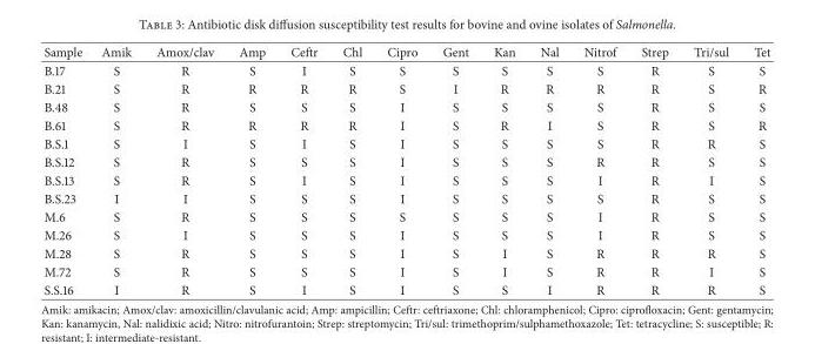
<table><thead><tr><td>Sample</td><td>Amik</td><td>Amox/clav</td><td>Amp</td><td>Ceftr</td><td>Chl</td><td>Cipro</td><td>Gent</td><td>Kan</td><td>Nal</td><td>Nitrof</td><td>Strep</td><td>Tri/sul</td><td>Tet</td></tr></thead><tbody><tr><td>B.17</td><td>S</td><td>R</td><td>S</td><td>I</td><td>S</td><td>S</td><td>S</td><td>S</td><td>S</td><td>S</td><td>R</td><td>S</td><td>S</td></tr><tr><td>B.21</td><td>S</td><td>R</td><td>R</td><td>R</td><td>R</td><td>S</td><td>I</td><td>R</td><td>R</td><td>R</td><td>R</td><td>S</td><td>R</td></tr><tr><td>B.48</td><td>S</td><td>R</td><td>S</td><td>S</td><td>S</td><td>I</td><td>S</td><td>S</td><td>S</td><td>S</td><td>R</td><td>S</td><td>S</td></tr><tr><td>B.61</td><td>S</td><td>R</td><td>R</td><td>R</td><td>R</td><td>I</td><td>S</td><td>R</td><td>I</td><td>S</td><td>R</td><td>S</td><td>R</td></tr><tr><td>B.S.1</td><td>S</td><td>I</td><td>S</td><td>I</td><td>S</td><td>I</td><td>S</td><td>S</td><td>S</td><td>S</td><td>R</td><td>R</td><td>S</td></tr><tr><td>B.S.12</td><td>S</td><td>R</td><td>S</td><td>S</td><td>S</td><td>I</td><td>S</td><td>S</td><td>S</td><td>R</td><td>R</td><td>S</td><td>S</td></tr><tr><td>B.S.13</td><td>S</td><td>R</td><td>S</td><td>I</td><td>S</td><td>I</td><td>S</td><td>S</td><td>S</td><td>I</td><td>R</td><td>I</td><td>S</td></tr><tr><td>B.S.23</td><td>I</td><td>I</td><td>S</td><td>S</td><td>S</td><td>I</td><td>S</td><td>S</td><td>S</td><td>S</td><td>R</td><td>S</td><td>S</td></tr><tr><td>M.6</td><td>S</td><td>R</td><td>S</td><td>S</td><td>S</td><td>S</td><td>S</td><td>S</td><td>S</td><td>I</td><td>R</td><td>S</td><td>S</td></tr><tr><td>M.26</td><td>S</td><td>I</td><td>S</td><td>S</td><td>S</td><td>I</td><td>S</td><td>S</td><td>S</td><td>I</td><td>R</td><td>S</td><td>S</td></tr><tr><td>M.28</td><td>S</td><td>R</td><td>S</td><td>S</td><td>S</td><td>I</td><td>S</td><td>I</td><td>S</td><td>R</td><td>R</td><td>R</td><td>S</td></tr><tr><td>M.72</td><td>S</td><td>R</td><td>S</td><td>S</td><td>S</td><td>I</td><td>S</td><td>I</td><td>S</td><td>R</td><td>R</td><td>I</td><td>S</td></tr><tr><td>S.S.16</td><td>I</td><td>R</td><td>S</td><td>I</td><td>S</td><td>I</td><td>S</td><td>S</td><td>I</td><td>R</td><td>R</td><td>R</td><td>S</td></tr></tbody></table>